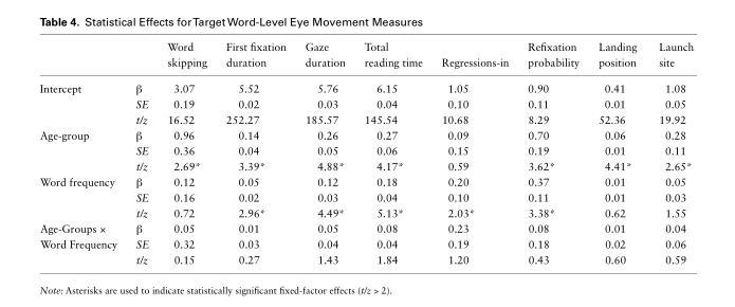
<table><thead><tr><td></td><td></td><td>Word skipping</td><td>First fixation duration</td><td>Gaze duration</td><td>Total reading time</td><td>Regressions-in</td><td>Refixation probability</td><td>Landing position</td><td>Launch site</td></tr></thead><tbody><tr><td rowspan="3">Intercept</td><td>β</td><td>3.07</td><td>5.52</td><td>5.76</td><td>6.15</td><td>1.05</td><td>0.90</td><td>0.41</td><td>1.08</td></tr><tr><td>SE</td><td>0.19</td><td>0.02</td><td>0.03</td><td>0.04</td><td>0.10</td><td>0.11</td><td>0.01</td><td>0.05</td></tr><tr><td>t/z</td><td>16.52</td><td>252.27</td><td>185.57</td><td>145.54</td><td>10.68</td><td>8.29</td><td>52.36</td><td>19.92</td></tr><tr><td rowspan="3">Age-group</td><td>β</td><td>0.96</td><td>0.14</td><td>0.26</td><td>0.27</td><td>0.09</td><td>0.70</td><td>0.06</td><td>0.28</td></tr><tr><td>SE</td><td>0.36</td><td>0.04</td><td>0.05</td><td>0.06</td><td>0.15</td><td>0.19</td><td>0.01</td><td>0.11</td></tr><tr><td>t/z</td><td>2.69*</td><td>3.39*</td><td>4.88*</td><td>4.17*</td><td>0.59</td><td>3.62*</td><td>4.41*</td><td>2.65*</td></tr><tr><td rowspan="3">Word frequency</td><td>β</td><td>0.12</td><td>0.05</td><td>0.12</td><td>0.18</td><td>0.20</td><td>0.37</td><td>0.01</td><td>0.05</td></tr><tr><td>SE</td><td>0.16</td><td>0.02</td><td>0.03</td><td>0.04</td><td>0.10</td><td>0.11</td><td>0.01</td><td>0.03</td></tr><tr><td>t/z</td><td>0.72</td><td>2.96*</td><td>4.49*</td><td>5.13*</td><td>2.03*</td><td>3.38*</td><td>0.62</td><td>1.55</td></tr><tr><td rowspan="3">Age-Groups × Word Frequency</td><td>β</td><td>0.05</td><td>0.01</td><td>0.05</td><td>0.08</td><td>0.23</td><td>0.08</td><td>0.01</td><td>0.04</td></tr><tr><td>SE</td><td>0.32</td><td>0.03</td><td>0.04</td><td>0.04</td><td>0.19</td><td>0.18</td><td>0.02</td><td>0.06</td></tr><tr><td>t/z</td><td>0.15</td><td>0.27</td><td>1.43</td><td>1.84</td><td>1.20</td><td>0.43</td><td>0.60</td><td>0.59</td></tr></tbody></table>